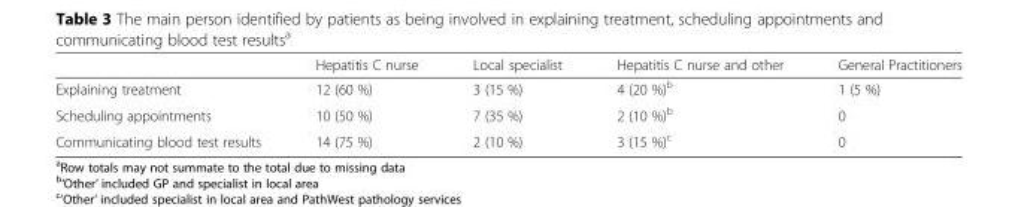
<table><thead><tr><td></td><td>Hepatitis C nurse</td><td>Local specialist</td><td>Hepatitis C nurse and other</td><td>General Practitioners</td></tr></thead><tbody><tr><td>Explaining treatment</td><td>12 (60 %)</td><td>3 (15 %)</td><td>4 (20 %)<sup>b</sup></td><td>1 (5 %)</td></tr><tr><td>Scheduling appointments</td><td>10 (50 %)</td><td>7 (35 %)</td><td>2 (10 %)<sup>b</sup></td><td>0</td></tr><tr><td>Communicating blood test results</td><td>14 (75 %)</td><td>2 (10 %)</td><td>3 (15 %)<sup>c</sup></td><td>0</td></tr></tbody></table>